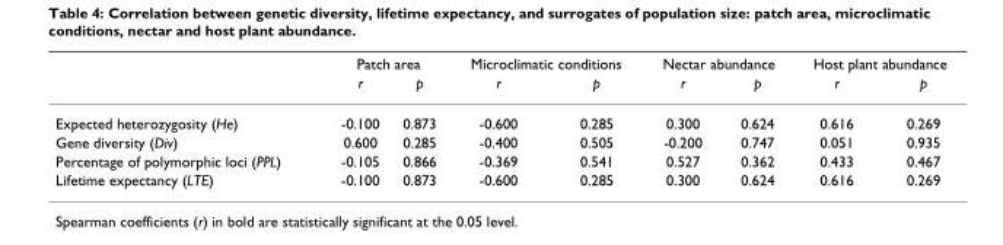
<table><thead><tr><td rowspan="2"></td><td colspan="2">Patch area</td><td colspan="2">Microclimatic conditions</td><td colspan="2">Nectar abundance</td><td colspan="2">Host plant abundance</td></tr><tr><td>r</td><td>p</td><td>r</td><td>p</td><td>r</td><td>p</td><td>r</td><td>p</td></tr></thead><tbody><tr><td>Expected heterozygosity (He)</td><td>-0.100</td><td>0.873</td><td>-0.600</td><td>0.285</td><td>0.300</td><td>0.624</td><td>0.616</td><td>0.269</td></tr><tr><td>Gene diversity (Div)</td><td>0.600</td><td>0.285</td><td>-0.400</td><td>0.505</td><td>-0.200</td><td>0.747</td><td>0.051</td><td>0.935</td></tr><tr><td>Percentage of polymorphic loci (PPL)</td><td>-0.105</td><td>0.866</td><td>-0.369</td><td>0.541</td><td>0.527</td><td>0.362</td><td>0.433</td><td>0.467</td></tr><tr><td>Lifetime expectancy (LTE)</td><td>-0.100</td><td>0.873</td><td>-0.600</td><td>0.285</td><td>0.300</td><td>0.624</td><td>0.616</td><td>0.269</td></tr></tbody></table>